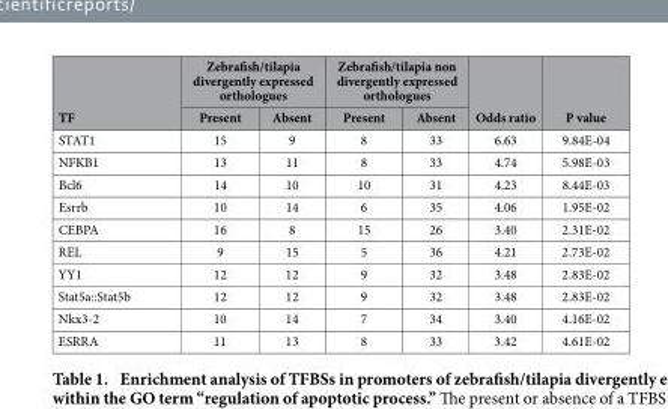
<table><thead><tr><td rowspan="2">TF</td><td colspan="2">Zebrafish/tilapia divergently expressed orthologues</td><td colspan="2">Zebrafish/tilapia non divergently expressed orthologues</td><td rowspan="2">Odds ratio</td><td rowspan="2">P value</td></tr><tr><td>Present</td><td>Absent</td><td>Present</td><td>Absent</td></tr></thead><tbody><tr><td>STAT1</td><td>15</td><td>9</td><td>8</td><td>33</td><td>6.63</td><td>9.84E-04</td></tr><tr><td>NFKB1</td><td>13</td><td>11</td><td>8</td><td>33</td><td>4.74</td><td>5.98E-03</td></tr><tr><td>Bcl6</td><td>14</td><td>10</td><td>10</td><td>31</td><td>4.23</td><td>8.44E-03</td></tr><tr><td>Esrrb</td><td>10</td><td>14</td><td>6</td><td>35</td><td>4.06</td><td>1.95E-02</td></tr><tr><td>CEBPA</td><td>16</td><td>8</td><td>15</td><td>26</td><td>3.40</td><td>2.31E-02</td></tr><tr><td>REL</td><td>9</td><td>15</td><td>5</td><td>36</td><td>4.21</td><td>2.73E-02</td></tr><tr><td>YY1</td><td>12</td><td>12</td><td>9</td><td>32</td><td>3.48</td><td>2.83E-02</td></tr><tr><td>Stat5a::Stat5b</td><td>12</td><td>12</td><td>9</td><td>32</td><td>3.48</td><td>2.83E-02</td></tr><tr><td>Nkx3-2</td><td>10</td><td>14</td><td>7</td><td>34</td><td>3.40</td><td>4.16E-02</td></tr><tr><td>ESRRA</td><td>11</td><td>13</td><td>8</td><td>33</td><td>3.42</td><td>4.61E-02</td></tr></tbody></table>